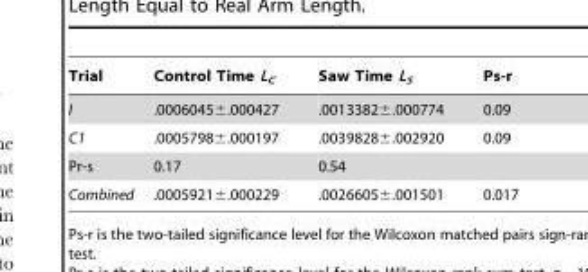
<table><thead><tr><td>Trial</td><td>Control Time L<sub>C</sub></td><td>Saw Time L<sub>S</sub></td><td>Ps-r</td></tr></thead><tbody><tr><td>I</td><td>.0006045±.000427</td><td>.0013382±.000774</td><td>0.09</td></tr><tr><td>C1</td><td>.0005798±.000197</td><td>.0039828±.002920</td><td>0.09</td></tr><tr><td>Pr-s</td><td>0.17</td><td>0.54</td><td></td></tr><tr><td>Combined</td><td>.0005921±.000229</td><td>.0026605±.001501</td><td>0.017</td></tr></tbody></table>